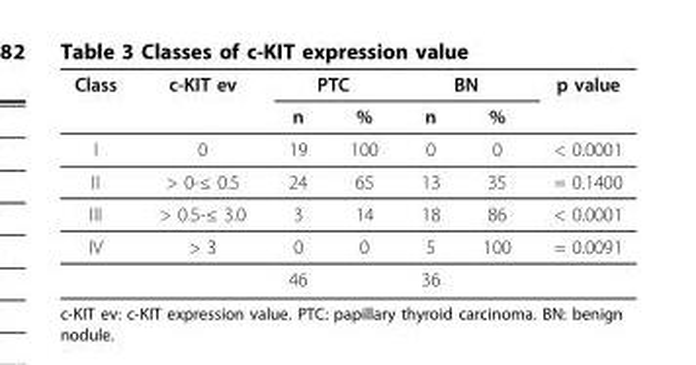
<table><thead><tr><td rowspan="2">Class</td><td rowspan="2">c-KIT ev</td><td colspan="2">PTC</td><td colspan="2">BN</td><td rowspan="2">p value</td></tr><tr><td>n</td><td>%</td><td>n</td><td>%</td></tr></thead><tbody><tr><td>I</td><td>0</td><td>19</td><td>100</td><td>0</td><td>0</td><td>&lt; 0.0001</td></tr><tr><td>II</td><td>&gt; 0-≤ 0.5</td><td>24</td><td>65</td><td>13</td><td>35</td><td>= 0.1400</td></tr><tr><td>III</td><td>&gt; 0.5-≤ 3.0</td><td>3</td><td>14</td><td>18</td><td>86</td><td>&lt; 0.0001</td></tr><tr><td rowspan="2">IV</td><td>&gt; 3</td><td>0</td><td>0</td><td>5</td><td>100</td><td>= 0.0091</td></tr><tr><td></td><td>46</td><td></td><td>36</td><td></td><td></td></tr></tbody></table>